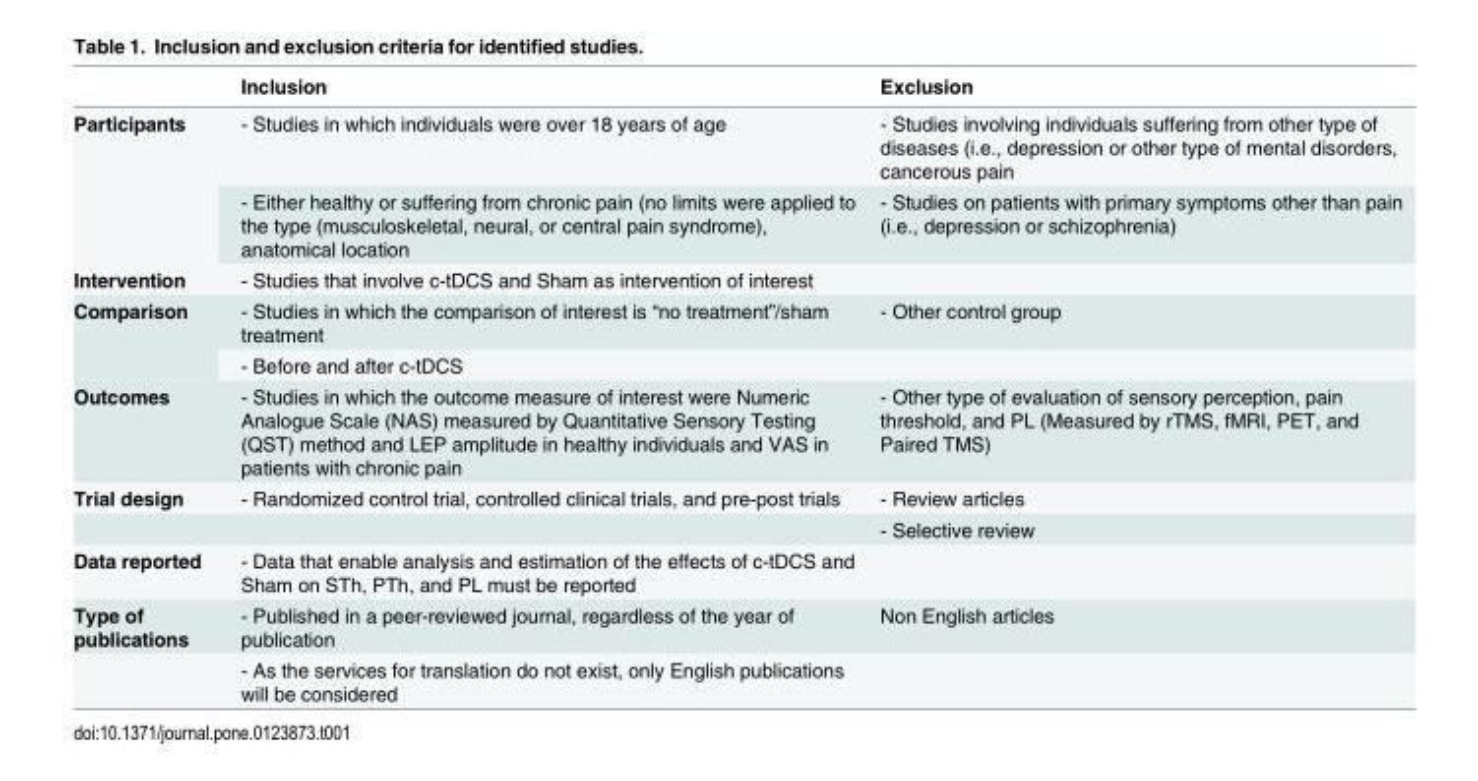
<table><thead><tr><td></td><td>Inclusion</td><td>Exclusion</td></tr></thead><tbody><tr><td rowspan="2">Participants</td><td>- Studies in which individuals were over 18 years of age</td><td>- Studies involving individuals suffering from other type of diseases (i.e., depression or other type of mental disorders, cancerous pain</td></tr><tr><td>- Either healthy or suffering from chronic pain (no limits were applied to the type (musculoskeletal, neural, or central pain syndrome), anatomical location</td><td>- Studies on patients with primary symptoms other than pain (i.e., depression or schizophrenia)</td></tr><tr><td>Intervention</td><td>- Studies that involve c-tDCS and Sham as intervention of interest</td><td></td></tr><tr><td rowspan="2">Comparison</td><td>- Studies in which the comparison of interest is “no treatment”/sham treatment</td><td>- Other control group</td></tr><tr><td>- Before and after c-tDCS</td><td></td></tr><tr><td>Outcomes</td><td>- Studies in which the outcome measure of interest were Numeric Analogue Scale (NAS) measured by Quantitative Sensory Testing (QST) method and LEP amplitude in healthy individuals and VAS in patients with chronic pain</td><td>- Other type of evaluation of sensory perception, pain threshold, and PL (Measured by rTMS, fMRI, PET, and Paired TMS)</td></tr><tr><td rowspan="2">Trial design</td><td>- Randomized control trial, controlled clinical trials, and pre-post trials</td><td>- Review articles</td></tr><tr><td></td><td>- Selective review</td></tr><tr><td>Data reported</td><td>- Data that enable analysis and estimation of the effects of c-tDCS and Sham on STh, PTh, and PL must be reported</td><td></td></tr><tr><td rowspan="2">Type of publications</td><td>- Published in a peer-reviewed journal, regardless of the year of publication</td><td>Non English articles</td></tr><tr><td>- As the services for translation do not exist, only English publications will be considered</td><td></td></tr></tbody></table>